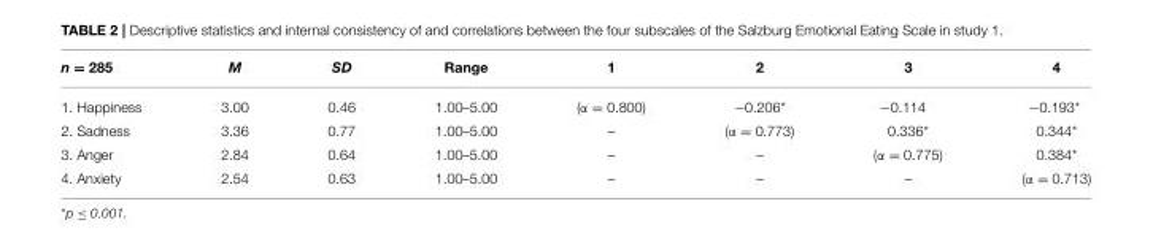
<table><thead><tr><td>n = 285</td><td>M</td><td>SD</td><td>Range</td><td>1</td><td>2</td><td>3</td><td>4</td></tr></thead><tbody><tr><td>1. Happiness</td><td>3.00</td><td>0.46</td><td>1.00–5.00</td><td>(α = 0.800)</td><td>−0.206*</td><td>−0.114</td><td>−0.193*</td></tr><tr><td>2. Sadness</td><td>3.36</td><td>0.77</td><td>1.00–5.00</td><td>–</td><td>(α = 0.773)</td><td>0.336*</td><td>0.344*</td></tr><tr><td>3. Anger</td><td>2.84</td><td>0.64</td><td>1.00–5.00</td><td>–</td><td>–</td><td>(α = 0.775)</td><td>0.384*</td></tr><tr><td>4. Anxiety</td><td>2.54</td><td>0.63</td><td>1.00–5.00</td><td>–</td><td>–</td><td>–</td><td>(α = 0.713)</td></tr></tbody></table>